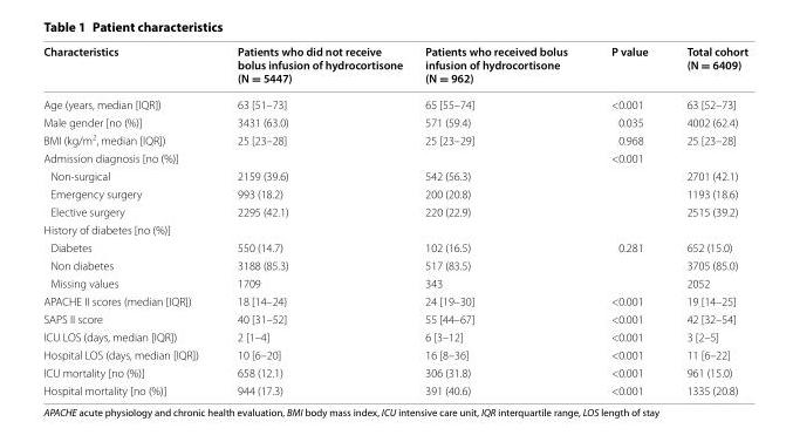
<table><thead><tr><td>Characteristics</td><td>Patients who did not receive bolus infusion of hydrocortisone (N = 5447)</td><td>Patients who received bolus infusion of hydrocortisone (N = 962)</td><td>P value</td><td>Total cohort (N = 6409)</td></tr></thead><tbody><tr><td>Age (years, median [IQR])</td><td>63 [51–73]</td><td>65 [55–74]</td><td>&lt;0.001</td><td>63 [52–73]</td></tr><tr><td>Male gender [no (%)]</td><td>3431 (63.0)</td><td>571 (59.4)</td><td>0.035</td><td>4002 (62.4)</td></tr><tr><td>BMI (kg/m<sup>2</sup>, median [IQR])</td><td>25 [23–28]</td><td>25 [23–29]</td><td>0.968</td><td>25 [23–28]</td></tr><tr><td>Admission diagnosis [no (%)]</td><td></td><td></td><td>&lt;0.001</td><td></td></tr><tr><td>Non‑surgical</td><td>2159 (39.6)</td><td>542 (56.3)</td><td></td><td>2701 (42.1)</td></tr><tr><td>Emergency surgery</td><td>993 (18.2)</td><td>200 (20.8)</td><td></td><td>1193 (18.6)</td></tr><tr><td>Elective surgery</td><td>2295 (42.1)</td><td>220 (22.9)</td><td></td><td>2515 (39.2)</td></tr><tr><td colspan="5">History of diabetes [no (%)]</td></tr><tr><td>Diabetes</td><td>550 (14.7)</td><td>102 (16.5)</td><td>0.281</td><td>652 (15.0)</td></tr><tr><td>Non diabetes</td><td>3188 (85.3)</td><td>517 (83.5)</td><td></td><td>3705 (85.0)</td></tr><tr><td>Missing values</td><td>1709</td><td>343</td><td></td><td>2052</td></tr><tr><td>APACHE II scores (median [IQR])</td><td>18 [14–24}</td><td>24 [19–30]</td><td>&lt;0.001</td><td>19 [14–25]</td></tr><tr><td>SAPS II score</td><td>40 [31–52]</td><td>55 [44–67]</td><td>&lt;0.001</td><td>42 [32–54]</td></tr><tr><td>ICU LOS (days, median [IQR])</td><td>2 [1–4]</td><td>6 [3–12]</td><td>&lt;0.001</td><td>3 [2–5]</td></tr><tr><td>Hospital LOS (days, median [IQR])</td><td>10 [6–20]</td><td>16 [8–36]</td><td>&lt;0.001</td><td>11 [6–22]</td></tr><tr><td>ICU mortality [no (%)]</td><td>658 (12.1)</td><td>306 (31.8)</td><td>&lt;0.001</td><td>961 (15.0)</td></tr><tr><td>Hospital mortality [no (%)]</td><td>944 (17.3)</td><td>391 (40.6)</td><td>&lt;0.001</td><td>1335 (20.8)</td></tr></tbody></table>